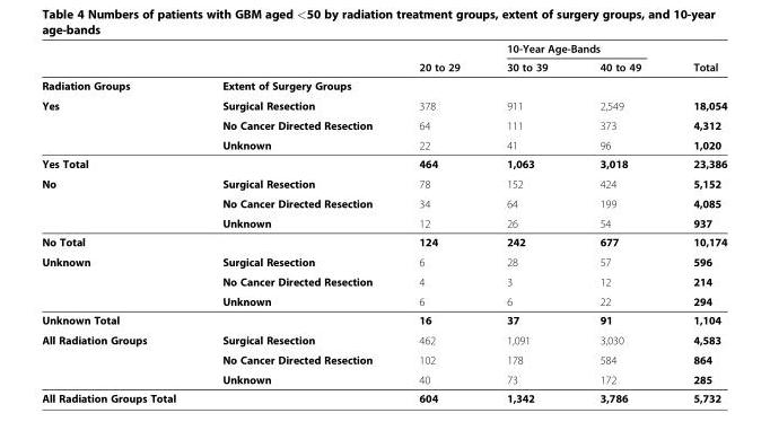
<table><thead><tr><td rowspan="2"></td><td rowspan="2"></td><td rowspan="2">20 to 29</td><td colspan="2">10-Year Age-Bands</td><td rowspan="2">Total</td></tr><tr><td>30 to 39</td><td>40 to 49</td></tr></thead><tbody><tr><td>Radiation Groups</td><td>Extent of Surgery Groups</td><td></td><td></td><td></td><td></td></tr><tr><td rowspan="3">Yes</td><td>Surgical Resection</td><td>378</td><td>911</td><td>2,549</td><td>18,054</td></tr><tr><td>No Cancer Directed Resection</td><td>64</td><td>111</td><td>373</td><td>4,312</td></tr><tr><td>Unknown</td><td>22</td><td>41</td><td>96</td><td>1,020</td></tr><tr><td>Yes Total</td><td></td><td>464</td><td>1,063</td><td>3,018</td><td>23,386</td></tr><tr><td rowspan="3">No</td><td>Surgical Resection</td><td>78</td><td>152</td><td>424</td><td>5,152</td></tr><tr><td>No Cancer Directed Resection</td><td>34</td><td>64</td><td>199</td><td>4,085</td></tr><tr><td>Unknown</td><td>12</td><td>26</td><td>54</td><td>937</td></tr><tr><td>No Total</td><td></td><td>124</td><td>242</td><td>677</td><td>10,174</td></tr><tr><td rowspan="3">Unknown</td><td>Surgical Resection</td><td>6</td><td>28</td><td>57</td><td>596</td></tr><tr><td>No Cancer Directed Resection</td><td>4</td><td>3</td><td>12</td><td>214</td></tr><tr><td>Unknown</td><td>6</td><td>6</td><td>22</td><td>294</td></tr><tr><td>Unknown Total</td><td></td><td>16</td><td>37</td><td>91</td><td>1,104</td></tr><tr><td rowspan="3">All Radiation Groups</td><td>Surgical Resection</td><td>462</td><td>1,091</td><td>3,030</td><td>4,583</td></tr><tr><td>No Cancer Directed Resection</td><td>102</td><td>178</td><td>584</td><td>864</td></tr><tr><td>Unknown</td><td>40</td><td>73</td><td>172</td><td>285</td></tr><tr><td>All Radiation Groups Total</td><td></td><td>604</td><td>1,342</td><td>3,786</td><td>5,732</td></tr></tbody></table>